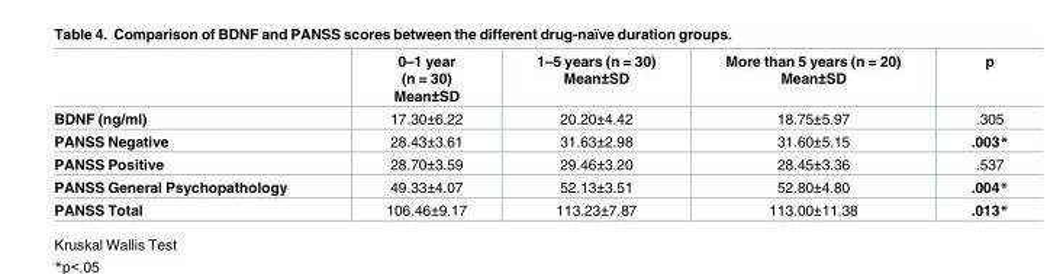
<table><thead><tr><td></td><td>0–1 year (n = 30) Mean±SD</td><td>1–5 years (n = 30) Mean±SD</td><td>More than 5 years (n = 20) Mean±SD</td><td>p</td></tr></thead><tbody><tr><td>BDNF (ng/ml)</td><td>17.30±6.22</td><td>20.20±4.42</td><td>18.75±5.97</td><td>.305</td></tr><tr><td>PANSS Negative</td><td>28.43±3.61</td><td>31.63±2.98</td><td>31.60±5.15</td><td>.003*</td></tr><tr><td>PANSS Positive</td><td>28.70±3.59</td><td>29.46±3.20</td><td>28.45±3.36</td><td>.537</td></tr><tr><td>PANSS General Psychopathology</td><td>49.33±4.07</td><td>52.13±3.51</td><td>52.80±4.80</td><td>.004*</td></tr><tr><td>PANSS Total</td><td>106.46±9.17</td><td>113.23±7.87</td><td>113.00±11.38</td><td>.013*</td></tr></tbody></table>